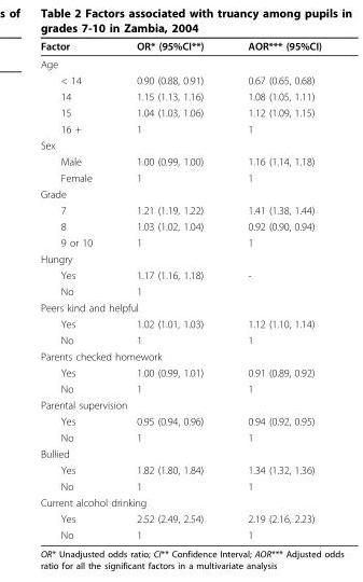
<table><thead><tr><td>Factor</td><td>OR* (95%CI**)</td><td>AOR*** (95%CI)</td></tr></thead><tbody><tr><td colspan="3">Age</td></tr><tr><td>&lt; 14</td><td>0.90 (0.88, 0.91)</td><td>0.67 (0.65, 0.68)</td></tr><tr><td>14</td><td>1.15 (1.13, 1.16)</td><td>1.08 (1.05, 1.11)</td></tr><tr><td>15</td><td>1.04 (1.03, 1.06)</td><td>1.12 (1.09, 1.15)</td></tr><tr><td>16 +</td><td>1</td><td>1</td></tr><tr><td colspan="3">Sex</td></tr><tr><td>Male</td><td>1.00 (0.99, 1.00)</td><td>1.16 (1.14, 1.18)</td></tr><tr><td>Female</td><td>1</td><td>1</td></tr><tr><td colspan="3">Grade</td></tr><tr><td>7</td><td>1.21 (1.19, 1.22)</td><td>1.41 (1.38, 1.44)</td></tr><tr><td>8</td><td>1.03 (1.02, 1.04)</td><td>0.92 (0.90, 0.94)</td></tr><tr><td>9 or 10</td><td>1</td><td>1</td></tr><tr><td colspan="3">Hungry</td></tr><tr><td>Yes</td><td>1.17 (1.16, 1.18)</td><td>-</td></tr><tr><td>No</td><td>1</td><td></td></tr><tr><td colspan="3">Peers kind and helpful</td></tr><tr><td>Yes</td><td>1.02 (1.01, 1.03)</td><td>1.12 (1.10, 1.14)</td></tr><tr><td>No</td><td>1</td><td>1</td></tr><tr><td colspan="3">Parents checked homework</td></tr><tr><td>Yes</td><td>1.00 (0.99, 1.01)</td><td>0.91 (0.89, 0.92)</td></tr><tr><td>No</td><td>1</td><td>1</td></tr><tr><td colspan="3">Parental supervision</td></tr><tr><td>Yes</td><td>0.95 (0.94, 0.96)</td><td>0.94 (0.92, 0.95)</td></tr><tr><td>No</td><td>1</td><td>1</td></tr><tr><td colspan="3">Bullied</td></tr><tr><td>Yes</td><td>1.82 (1.80, 1.84)</td><td>1.34 (1.32, 1.36)</td></tr><tr><td>No</td><td>1</td><td>1</td></tr><tr><td colspan="3">Current alcohol drinking</td></tr><tr><td>Yes</td><td>2.52 (2.49, 2.54)</td><td>2.19 (2.16, 2.23)</td></tr><tr><td>No</td><td>1</td><td>1</td></tr></tbody></table>